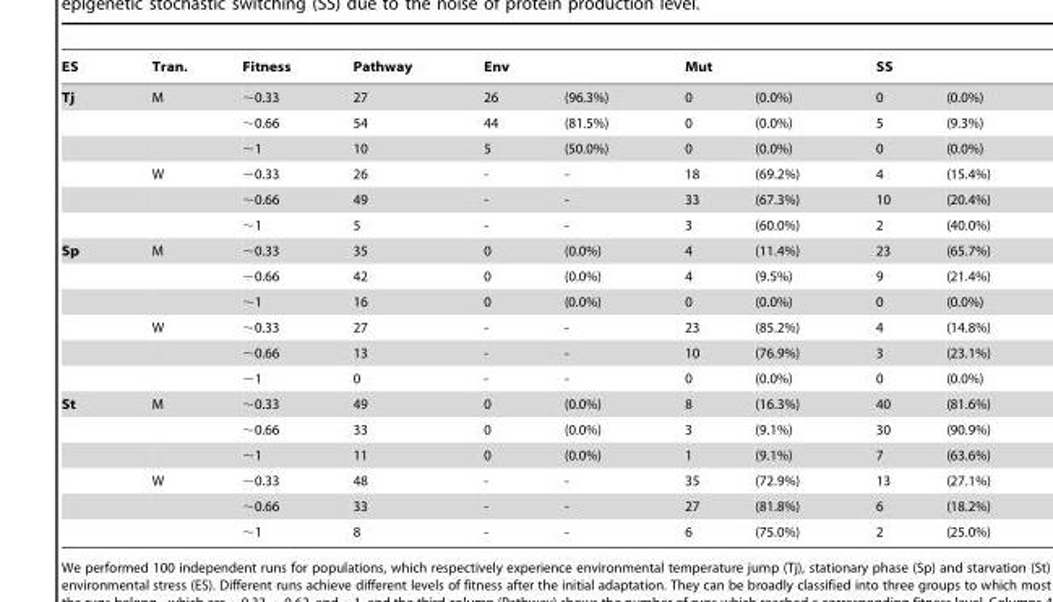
<table><thead><tr><td rowspan="2">ES Tj</td><td rowspan="2">Tran. M</td><td rowspan="2">Fitness ∼0.33</td><td rowspan="2">Pathway 27</td><td colspan="2">Env</td><td colspan="2">Mut</td><td colspan="2">SS</td></tr><tr><td>26</td><td>(96.3%)</td><td>0</td><td>(0.0%)</td><td>0</td><td>(0.0%)</td></tr></thead><tbody><tr><td></td><td></td><td>∼0.66</td><td>54</td><td>44</td><td>(81.5%)</td><td>0</td><td>(0.0%)</td><td>5</td><td>(9.3%)</td></tr><tr><td></td><td></td><td>∼1</td><td>10</td><td>5</td><td>(50.0%)</td><td>0</td><td>(0.0%)</td><td>0</td><td>(0.0%)</td></tr><tr><td></td><td>W</td><td>∼0.33</td><td>26</td><td>-</td><td>-</td><td>18</td><td>(69.2%)</td><td>4</td><td>(15.4%)</td></tr><tr><td></td><td></td><td>∼0.66</td><td>49</td><td>-</td><td>-</td><td>33</td><td>(67.3%)</td><td>10</td><td>(20.4%)</td></tr><tr><td></td><td></td><td>∼1</td><td>5</td><td>-</td><td>-</td><td>3</td><td>(60.0%)</td><td>2</td><td>(40.0%)</td></tr><tr><td rowspan="6">Sp</td><td>M</td><td>∼0.33</td><td>35</td><td>0</td><td>(0.0%)</td><td>4</td><td>(11.4%)</td><td>23</td><td>(65.7%)</td></tr><tr><td></td><td>∼0.66</td><td>42</td><td>0</td><td>(0.0%)</td><td>4</td><td>(9.5%)</td><td>9</td><td>(21.4%)</td></tr><tr><td></td><td>∼1</td><td>16</td><td>0</td><td>(0.0%)</td><td>0</td><td>(0.0%)</td><td>0</td><td>(0.0%)</td></tr><tr><td>W</td><td>∼0.33</td><td>27</td><td>-</td><td>-</td><td>23</td><td>(85.2%)</td><td>4</td><td>(14.8%)</td></tr><tr><td></td><td>∼0.66</td><td>13</td><td>-</td><td>-</td><td>10</td><td>(76.9%)</td><td>3</td><td>(23.1%)</td></tr><tr><td></td><td>∼1</td><td>0</td><td>-</td><td>-</td><td>0</td><td>(0.0%)</td><td>0</td><td>(0.0%)</td></tr><tr><td rowspan="6">St</td><td>M</td><td>∼0.33</td><td>49</td><td>0</td><td>(0.0%)</td><td>8</td><td>(16.3%)</td><td>40</td><td>(81.6%)</td></tr><tr><td></td><td>∼0.66</td><td>33</td><td>0</td><td>(0.0%)</td><td>3</td><td>(9.1%)</td><td>30</td><td>(90.9%)</td></tr><tr><td></td><td>∼1</td><td>11</td><td>0</td><td>(0.0%)</td><td>1</td><td>(9.1%)</td><td>7</td><td>(63.6%)</td></tr><tr><td>W</td><td>∼0.33</td><td>48</td><td>-</td><td>-</td><td>35</td><td>(72.9%)</td><td>13</td><td>(27.1%)</td></tr><tr><td></td><td>∼0.66</td><td>33</td><td>-</td><td>-</td><td>27</td><td>(81.8%)</td><td>6</td><td>(18.2%)</td></tr><tr><td></td><td>∼1</td><td>8</td><td>-</td><td>-</td><td>6</td><td>(75.0%)</td><td>2</td><td>(25.0%)</td></tr></tbody></table>